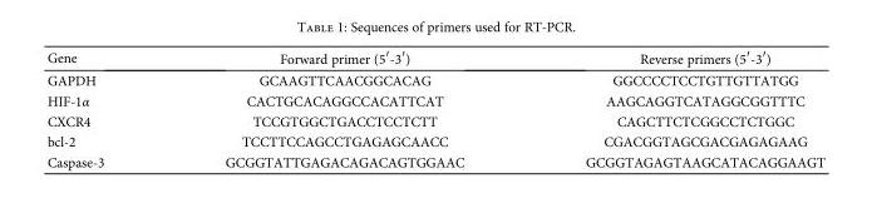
<table><thead><tr><td>Gene</td><td>Forward primer (5′-3′)</td><td>Reverse primers (5′-3′)</td></tr></thead><tbody><tr><td>GAPDH</td><td>GCAAGTTCAACGGCACAG</td><td>GGCCCCTCCTGTTGTTATGG</td></tr><tr><td>HIF-1α</td><td>CACTGCACAGGCCACATTCAT</td><td>AAGCAGGTCATAGGCGGTTTC</td></tr><tr><td>CXCR4</td><td>TCCGTGGCTGACCTCCTCTT</td><td>CAGCTTCTCGGCCTCTGGC</td></tr><tr><td>bcl-2</td><td>TCCTTCCAGCCTGAGAGCAACC</td><td>CGACGGTAGCGACGAGAGAAG</td></tr><tr><td>Caspase-3</td><td>GCGGTATTGAGACAGACAGTGGAAC</td><td>GCGGTAGAGTAAGCATACAGGAAGT</td></tr></tbody></table>